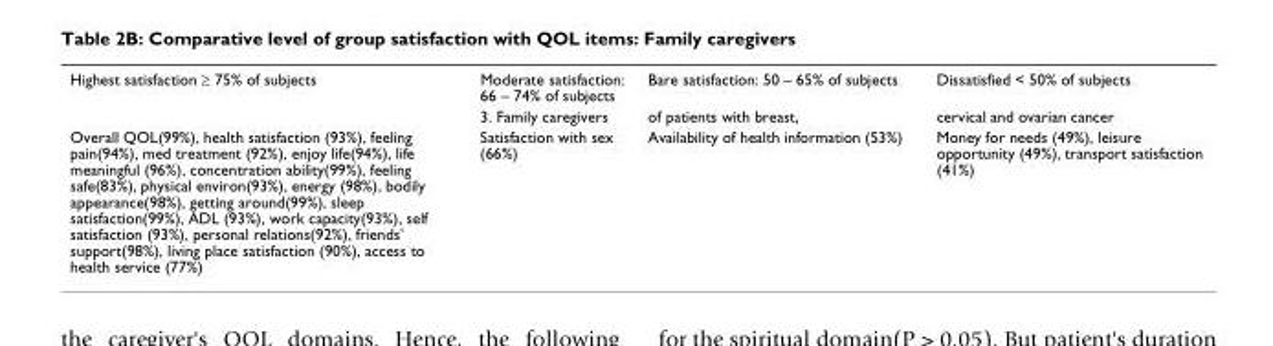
<table><tbody><tr><td rowspan="2">Highest satisfaction ≥ 75% of subjects</td><td>Moderate satisfaction: 66 – 74% of subjects</td><td>Bare satisfaction: 50 – 65% of subjects</td><td>Dissatisfied &lt; 50% of subjects</td></tr><tr><td>3. Family caregivers</td><td>of patients with breast,</td><td>cervical and ovarian cancer</td></tr><tr><td>Overall QOL(99%), health satisfaction (93%), feeling pain(94%), med treatment (92%), enjoy life(94%), life meaningful (96%), concentration ability(99%), feeling safe(83%), physical environ(93%), energy (98%), bodily appearance(98%), getting around(99%), sleep satisfaction(99%), ADL (93%), work capacity(93%), self satisfaction (93%), personal relations(92%), friends&#x27; support(98%), living place satisfaction (90%), access to health service (77%)</td><td>Satisfaction with sex (66%)</td><td>Availability of health information (53%)</td><td>Money for needs (49%), leisure opportunity (49%), transport satisfaction (41%)</td></tr></tbody></table>